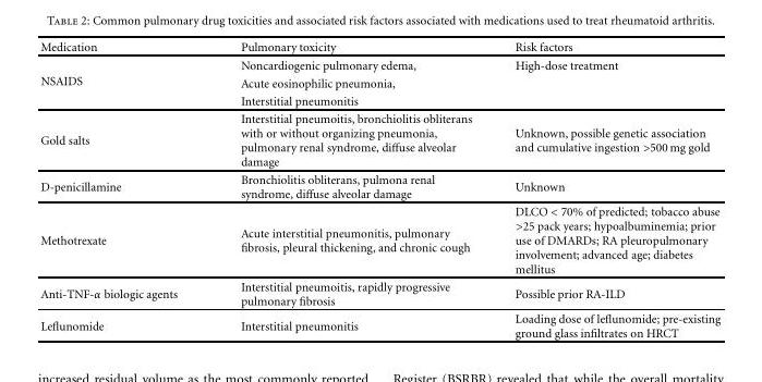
<table><thead><tr><td>Medication</td><td>Pulmonary toxicity</td><td>Risk factors</td></tr></thead><tbody><tr><td rowspan="3">NSAIDS</td><td>Noncardiogenic pulmonary edema,</td><td>High-dose treatment</td></tr><tr><td>Acute eosinophilic pneumonia,</td><td></td></tr><tr><td>Interstitial pneumonitis</td><td></td></tr><tr><td>Gold salts</td><td>Interstitial pneumoitis, bronchiolitis obliterans with or without organizing pneumonia, pulmonary renal syndrome, diffuse alveolar damage</td><td>Unknown, possible genetic association and cumulative ingestion &gt;500 mg gold</td></tr><tr><td>D-penicillamine</td><td>Bronchiolitis obliterans, pulmona renal syndrome, diffuse alveolar damage</td><td>Unknown</td></tr><tr><td>Methotrexate</td><td>Acute interstitial pneumonitis, pulmonary fibrosis, pleural thickening, and chronic cough</td><td>DLCO &lt; 70% of predicted; tobacco abuse &gt;25 pack years; hypoalbuminemia; prior use of DMARDs; RA pleuropulmonary involvement; advanced age; diabetes mellitus</td></tr><tr><td>Anti-TNF-α biologic agents</td><td>Interstitial pneumoitis, rapidly progressive pulmonary fibrosis</td><td>Possible prior RA-ILD</td></tr><tr><td>Leflunomide</td><td>Interstitial pneumonitis</td><td>Loading dose of leflunomide; pre-existing ground glass infiltrates on HRCT</td></tr></tbody></table>